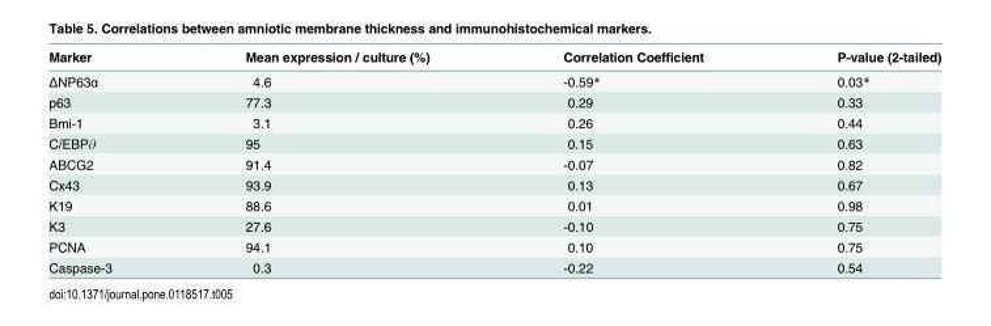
<table><thead><tr><td>Marker</td><td>Mean expression / culture (%)</td><td>Correlation Coefficient</td><td>P-value (2-tailed)</td></tr></thead><tbody><tr><td>ΔNP63α</td><td>4.6</td><td>-0.59*</td><td>0.03*</td></tr><tr><td>p63</td><td>77.3</td><td>0.29</td><td>0.33</td></tr><tr><td>Bmi-1</td><td>3.1</td><td>0.26</td><td>0.44</td></tr><tr><td>C/EBP∂</td><td>95</td><td>0.15</td><td>0.63</td></tr><tr><td>ABCG2</td><td>91.4</td><td>-0.07</td><td>0.82</td></tr><tr><td>Cx43</td><td>93.9</td><td>0.13</td><td>0.67</td></tr><tr><td>K19</td><td>88.6</td><td>0.01</td><td>0.98</td></tr><tr><td>K3</td><td>27.6</td><td>-0.10</td><td>0.75</td></tr><tr><td>PCNA</td><td>94.1</td><td>0.10</td><td>0.75</td></tr><tr><td>Caspase-3</td><td>0.3</td><td>-0.22</td><td>0.54</td></tr></tbody></table>